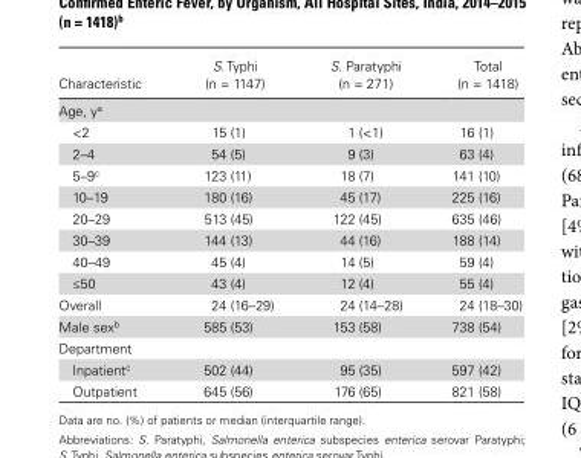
<table><thead><tr><td>Characteristic</td><td>S. Typhi (n = 1147)</td><td>S. Paratyphi (n = 271)</td><td>Total (n = 1418)</td></tr></thead><tbody><tr><td colspan="4">Age, y<sup>a</sup></td></tr><tr><td>&lt;2</td><td>15 (1)</td><td>1 (&lt;1)</td><td>16 (1)</td></tr><tr><td>2–4</td><td>54 (5)</td><td>9 (3)</td><td>63 (4)</td></tr><tr><td>5–9<sup>c</sup></td><td>123 (11)</td><td>18 (7)</td><td>141 (10)</td></tr><tr><td>10–19</td><td>180 (16)</td><td>45 (17)</td><td>225 (16)</td></tr><tr><td>20–29</td><td>513 (45)</td><td>122 (45)</td><td>635 (46)</td></tr><tr><td>30–39</td><td>144 (13)</td><td>44 (16)</td><td>188 (14)</td></tr><tr><td>40–49</td><td>45 (4)</td><td>14 (5)</td><td>59 (4)</td></tr><tr><td>≤50</td><td>43 (4)</td><td>12 (4)</td><td>55 (4)</td></tr><tr><td>Overall</td><td>24 (16–29)</td><td>24 (14–28)</td><td>24 (18–30)</td></tr><tr><td>Male sex<sup>b</sup></td><td>585 (53)</td><td>153 (58)</td><td>738 (54)</td></tr><tr><td colspan="4">Department</td></tr><tr><td>Inpatient<sup>c</sup></td><td>502 (44)</td><td>95 (35)</td><td>597 (42)</td></tr><tr><td>Outpatient</td><td>645 (56)</td><td>176 (65)</td><td>821 (58)</td></tr></tbody></table>